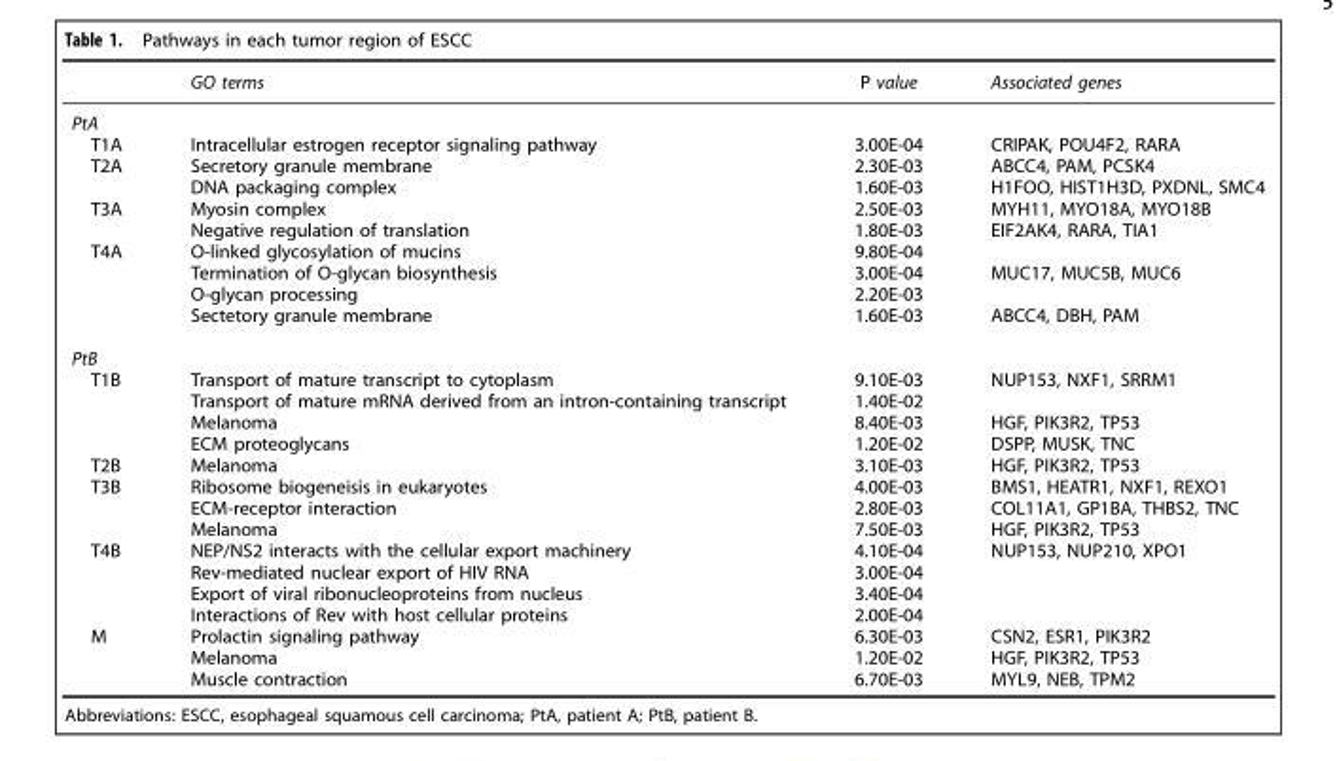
<table><thead><tr><td></td><td>GO terms</td><td>P value</td><td>Associated genes</td></tr></thead><tbody><tr><td colspan="4">PtA</td></tr><tr><td>T1A</td><td>Intracellular estrogen receptor signaling pathway</td><td>3.00E-04</td><td>CRIPAK, POU4F2, RARA</td></tr><tr><td rowspan="2">T2A</td><td>Secretory granule membrane</td><td>2.30E-03</td><td>ABCC4, PAM, PCSK4</td></tr><tr><td>DNA packaging complex</td><td>1.60E-03</td><td>H1FOO, HIST1H3D, PXDNL, SMC4</td></tr><tr><td rowspan="2">T3A</td><td>Myosin complex</td><td>2.50E-03</td><td>MYH11, MYO18A, MYO18B</td></tr><tr><td>Negative regulation of translation</td><td>1.80E-03</td><td>EIF2AK4, RARA, TIA1</td></tr><tr><td rowspan="4">T4A</td><td>O-linked glycosylation of mucins</td><td>9.80E-04</td><td></td></tr><tr><td>Termination of O-glycan biosynthesis</td><td>3.00E-04</td><td>MUC17, MUC5B, MUC6</td></tr><tr><td>O-glycan processing</td><td>2.20E-03</td><td></td></tr><tr><td>Sectetory granule membrane</td><td>1.60E-03</td><td>ABCC4, DBH, PAM</td></tr><tr><td colspan="4">PtB</td></tr><tr><td rowspan="4">T1B</td><td>Transport of mature transcript to cytoplasm</td><td>9.10E-03</td><td>NUP153, NXF1, SRRM1</td></tr><tr><td>Transport of mature mRNA derived from an intron-containing transcript</td><td>1.40E-02</td><td></td></tr><tr><td>Melanoma</td><td>8.40E-03</td><td>HGF, PIK3R2, TP53</td></tr><tr><td>ECM proteoglycans</td><td>1.20E-02</td><td>DSPP, MUSK, TNC</td></tr><tr><td>T2B</td><td>Melanoma</td><td>3.10E-03</td><td>HGF, PIK3R2, TP53</td></tr><tr><td rowspan="3">T3B</td><td>Ribosome biogeneisis in eukaryotes</td><td>4.00E-03</td><td>BMS1, HEATR1, NXF1, REXO1</td></tr><tr><td>ECM-receptor interaction</td><td>2.80E-03</td><td>COL11A1, GP1BA, THBS2, TNC</td></tr><tr><td>Melanoma</td><td>7.50E-03</td><td>HGF, PIK3R2, TP53</td></tr><tr><td rowspan="4">T4B</td><td>NEP/NS2 interacts with the cellular export machinery</td><td>4.10E-04</td><td>NUP153, NUP210, XPO1</td></tr><tr><td>Rev-mediated nuclear export of HIV RNA</td><td>3.00E-04</td><td></td></tr><tr><td>Export of viral ribonucleoproteins from nucleus</td><td>3.40E-04</td><td></td></tr><tr><td>Interactions of Rev with host cellular proteins</td><td>2.00E-04</td><td></td></tr><tr><td rowspan="3">M</td><td>Prolactin signaling pathway</td><td>6.30E-03</td><td>CSN2, ESR1, PIK3R2</td></tr><tr><td>Melanoma</td><td>1.20E-02</td><td>HGF, PIK3R2, TP53</td></tr><tr><td>Muscle contraction</td><td>6.70E-03</td><td>MYL9, NEB, TPM2</td></tr></tbody></table>